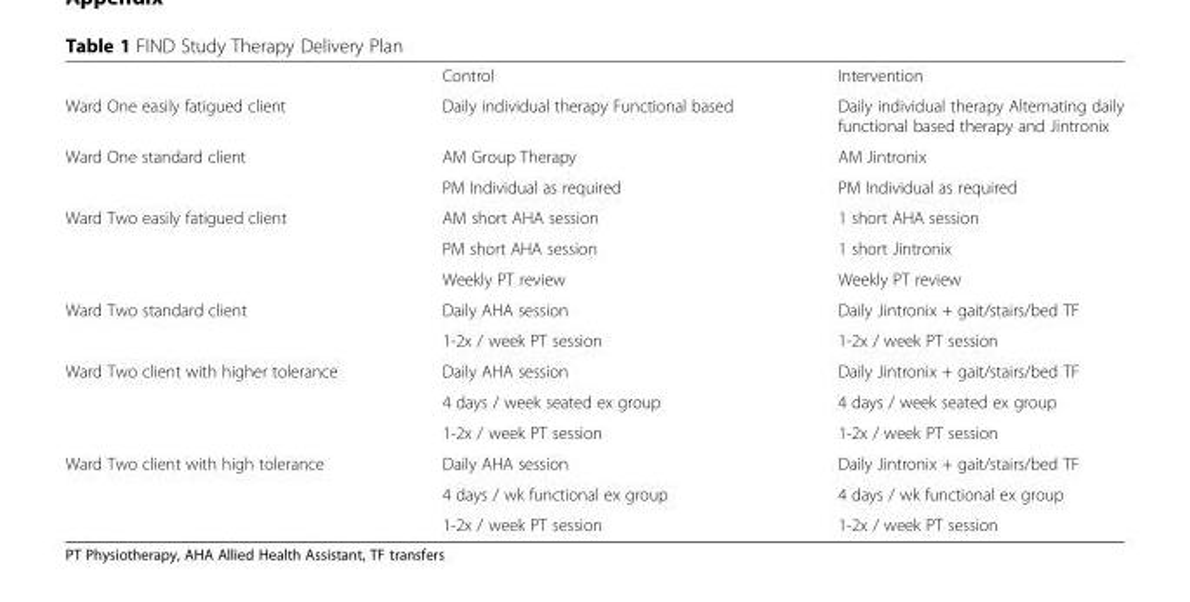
<table><thead><tr><td></td><td>Control</td><td>Intervention</td></tr></thead><tbody><tr><td>Ward One easily fatigued client</td><td>Daily individual therapy Functional based</td><td>Daily individual therapy Alternating daily functional based therapy and Jintronix</td></tr><tr><td rowspan="2">Ward One standard client</td><td>AM Group Therapy</td><td>AM Jintronix</td></tr><tr><td>PM Individual as required</td><td>PM Individual as required</td></tr><tr><td rowspan="3">Ward Two easily fatigued client</td><td>AM short AHA session</td><td>1 short AHA session</td></tr><tr><td>PM short AHA session</td><td>1 short Jintronix</td></tr><tr><td>Weekly PT review</td><td>Weekly PT review</td></tr><tr><td rowspan="2">Ward Two standard client</td><td>Daily AHA session</td><td>Daily Jintronix + gait/stairs/bed TF</td></tr><tr><td>1-2x / week PT session</td><td>1-2x / week PT session</td></tr><tr><td rowspan="3">Ward Two client with higher tolerance</td><td>Daily AHA session</td><td>Daily Jintronix + gait/stairs/bed TF</td></tr><tr><td>4 days / week seated ex group</td><td>4 days / week seated ex group</td></tr><tr><td>1-2x / week PT session</td><td>1-2x / week PT session</td></tr><tr><td rowspan="3">Ward Two client with high tolerance</td><td>Daily AHA session</td><td>Daily Jintronix + gait/stairs/bed TF</td></tr><tr><td>4 days / wk functional ex group</td><td>4 days / wk functional ex group</td></tr><tr><td>1-2x / week PT session</td><td>1-2x / week PT session</td></tr></tbody></table>